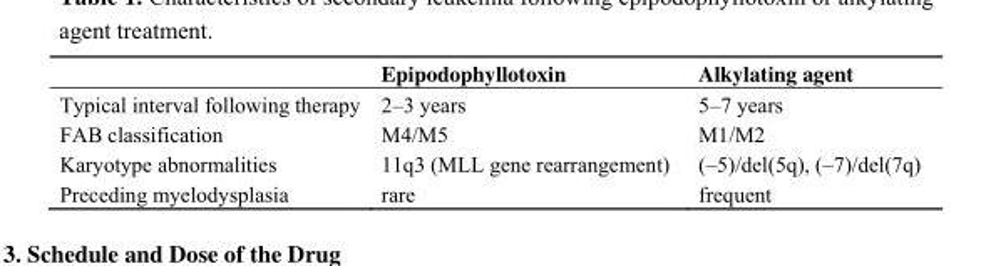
<table><thead><tr><td></td><td>Epipodophyllotoxin</td><td>Alkylating agent</td></tr></thead><tbody><tr><td>Typical interval following therapy</td><td>2–3 years</td><td>5–7 years</td></tr><tr><td>FAB classification</td><td>M4/M5</td><td>M1/M2</td></tr><tr><td>Karyotype abnormalities</td><td>11q3 (MLL gene rearrangement)</td><td>(–5)/del(5q), (–7)/del(7q)</td></tr><tr><td>Preceding myelodysplasia</td><td>rare</td><td>frequent</td></tr></tbody></table>